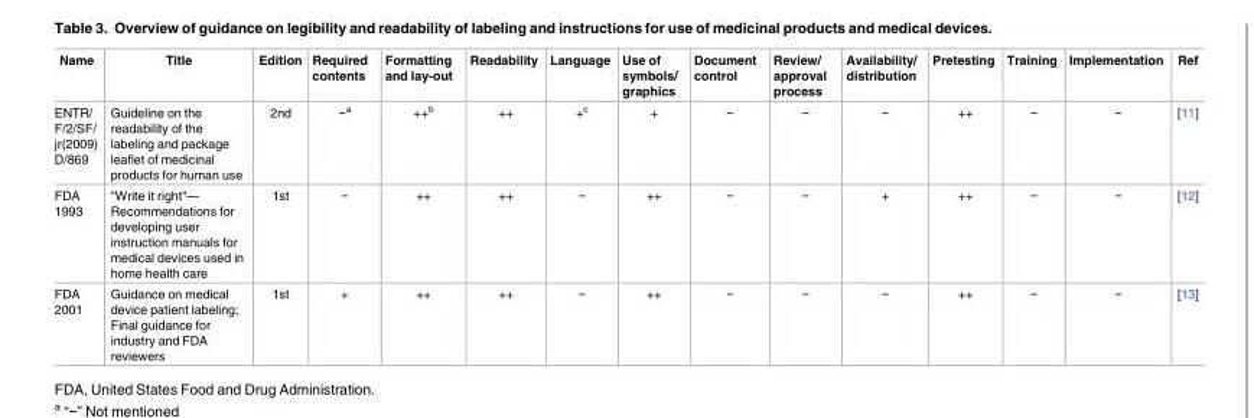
<table><thead><tr><td>Name</td><td>Title</td><td>Edition</td><td>Required contents</td><td>Formatting and lay-out</td><td>Readability</td><td>Language</td><td>Use of symbols/ graphics</td><td>Document control</td><td>Review/ approval process</td><td>Availability/ distribution</td><td>Pretesting</td><td>Training</td><td>Implementation</td><td>Ref</td></tr></thead><tbody><tr><td>ENTR/ F/2/SF/ jr(2009) D/869</td><td>Guideline on the readability of the labeling and package leaflet of medicinal products for human use</td><td>2nd</td><td>−<sup>a</sup></td><td>++<sup>b</sup></td><td>++</td><td>+<sup>c</sup></td><td>+</td><td>−</td><td>−</td><td>−</td><td>++</td><td>−</td><td>−</td><td>[11]</td></tr><tr><td>FDA 1993</td><td>&quot;Write it right&quot;— Recommendations for developing user instruction manuals for medical devices used in home health care</td><td>1st</td><td>−</td><td>++</td><td>++</td><td>−</td><td>++</td><td>−</td><td>−</td><td>+</td><td>++</td><td>−</td><td>−</td><td>[12]</td></tr><tr><td>FDA 2001</td><td>Guidance on medical device patient labeling; Final guidance for industry and FDA reviewers</td><td>1st</td><td>+</td><td>++</td><td>++</td><td>−</td><td>++</td><td>−</td><td>−</td><td>−</td><td>++</td><td>−</td><td>−</td><td>[13]</td></tr></tbody></table>